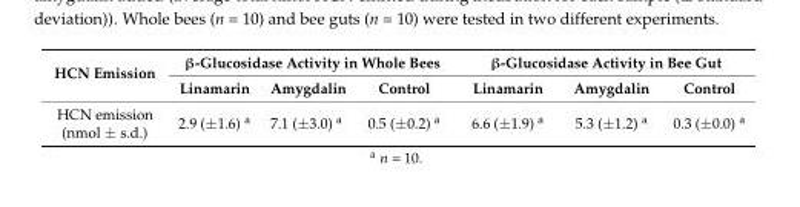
<table><thead><tr><td rowspan="2">HCN Emission</td><td colspan="3">β-Glucosidase Activity in Whole Bees</td><td colspan="3">β-Glucosidase Activity in Bee Gut</td></tr><tr><td>Linamarin</td><td>Amygdalin</td><td>Control</td><td>Linamarin</td><td>Amygdalin</td><td>Control</td></tr></thead><tbody><tr><td>HCN emission (nmol ± s.d.)</td><td>2.9 (±1.6) <sup>a</sup></td><td>7.1 (±3.0) <sup>a</sup></td><td>0.5 (±0.2) <sup>a</sup></td><td>6.6 (±1.9) <sup>a</sup></td><td>5.3 (±1.2) <sup>a</sup></td><td>0.3 (±0.0) <sup>a</sup></td></tr></tbody></table>